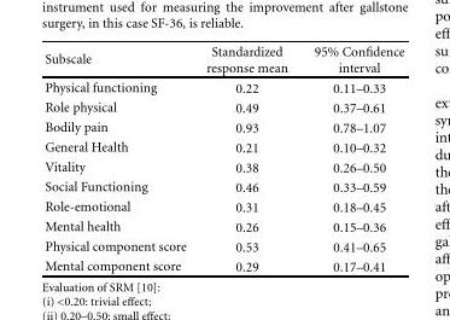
<table><thead><tr><td>Subscale</td><td>Standardized response mean</td><td>95% Confidence interval</td></tr></thead><tbody><tr><td>Physical functioning</td><td>0.22</td><td>0.11–0.33</td></tr><tr><td>Role physical</td><td>0.49</td><td>0.37–0.61</td></tr><tr><td>Bodily pain</td><td>0.93</td><td>0.78–1.07</td></tr><tr><td>General Health</td><td>0.21</td><td>0.10–0.32</td></tr><tr><td>Vitality</td><td>0.38</td><td>0.26–0.50</td></tr><tr><td>Social Functioning</td><td>0.46</td><td>0.33–0.59</td></tr><tr><td>Role-emotional</td><td>0.31</td><td>0.18–0.45</td></tr><tr><td>Mental health</td><td>0.26</td><td>0.15–0.36</td></tr><tr><td>Physical component score</td><td>0.53</td><td>0.41–0.65</td></tr><tr><td>Mental component score</td><td>0.29</td><td>0.17–0.41</td></tr></tbody></table>